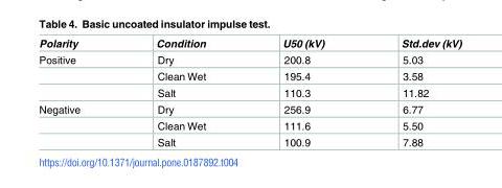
<table><thead><tr><td>Polarity</td><td>Condition</td><td>U50 (kV)</td><td>Std.dev (kV)</td></tr></thead><tbody><tr><td rowspan="3">Positive</td><td>Dry</td><td>200.8</td><td>5.03</td></tr><tr><td>Clean Wet</td><td>195.4</td><td>3.58</td></tr><tr><td>Salt</td><td>110.3</td><td>11.82</td></tr><tr><td rowspan="3">Negative</td><td>Dry</td><td>256.9</td><td>6.77</td></tr><tr><td>Clean Wet</td><td>111.6</td><td>5.50</td></tr><tr><td>Salt</td><td>100.9</td><td>7.88</td></tr></tbody></table>